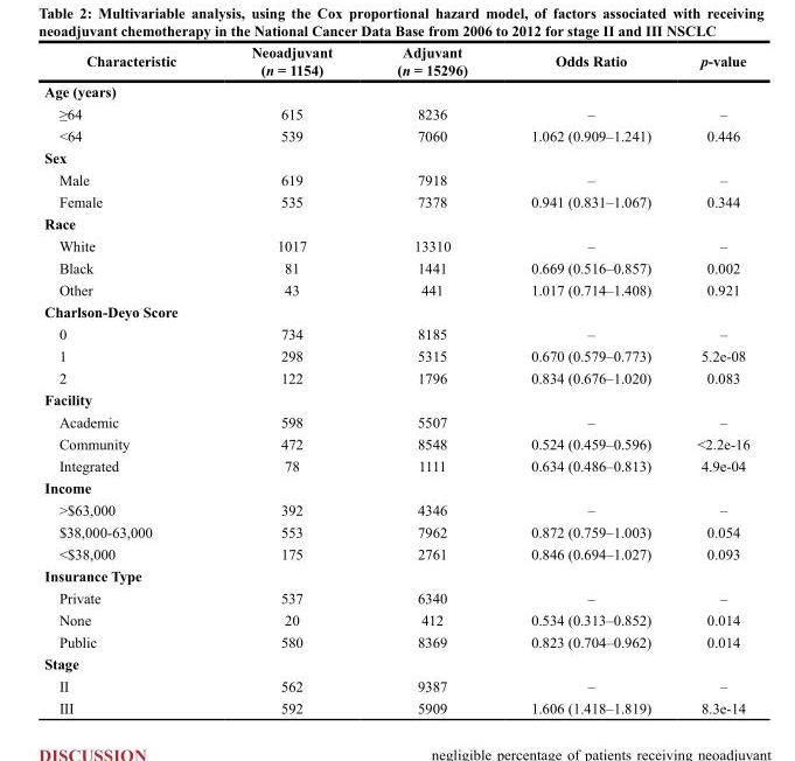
<table><thead><tr><td>Characteristic</td><td>Neoadjuvant (n = 1154)</td><td>Adjuvant (n = 15296)</td><td>Odds Ratio</td><td>p-value</td></tr></thead><tbody><tr><td colspan="5">Age (years)</td></tr><tr><td>≥64</td><td>615</td><td>8236</td><td>–</td><td>–</td></tr><tr><td>&lt;64</td><td>539</td><td>7060</td><td>1.062 (0.909–1.241)</td><td>0.446</td></tr><tr><td colspan="5">Sex</td></tr><tr><td>Male</td><td>619</td><td>7918</td><td>–</td><td>–</td></tr><tr><td>Female</td><td>535</td><td>7378</td><td>0.941 (0.831–1.067)</td><td>0.344</td></tr><tr><td colspan="5">Race</td></tr><tr><td>White</td><td>1017</td><td>13310</td><td>–</td><td>–</td></tr><tr><td>Black</td><td>81</td><td>1441</td><td>0.669 (0.516–0.857)</td><td>0.002</td></tr><tr><td>Other</td><td>43</td><td>441</td><td>1.017 (0.714–1.408)</td><td>0.921</td></tr><tr><td colspan="5">Charlson-Deyo Score</td></tr><tr><td>0</td><td>734</td><td>8185</td><td>–</td><td>–</td></tr><tr><td>1</td><td>298</td><td>5315</td><td>0.670 (0.579–0.773)</td><td>5.2e-08</td></tr><tr><td>2</td><td>122</td><td>1796</td><td>0.834 (0.676–1.020)</td><td>0.083</td></tr><tr><td colspan="5">Facility</td></tr><tr><td>Academic</td><td>598</td><td>5507</td><td>–</td><td>–</td></tr><tr><td>Community</td><td>472</td><td>8548</td><td>0.524 (0.459–0.596)</td><td>&lt;2.2e-16</td></tr><tr><td>Integrated</td><td>78</td><td>1111</td><td>0.634 (0.486–0.813)</td><td>4.9e-04</td></tr><tr><td colspan="5">Income</td></tr><tr><td>&gt;$63,000</td><td>392</td><td>4346</td><td>–</td><td>–</td></tr><tr><td>$38,000-63,000</td><td>553</td><td>7962</td><td>0.872 (0.759–1.003)</td><td>0.054</td></tr><tr><td>&lt;$38,000</td><td>175</td><td>2761</td><td>0.846 (0.694–1.027)</td><td>0.093</td></tr><tr><td colspan="5">Insurance Type</td></tr><tr><td>Private</td><td>537</td><td>6340</td><td>–</td><td>–</td></tr><tr><td>None</td><td>20</td><td>412</td><td>0.534 (0.313–0.852)</td><td>0.014</td></tr><tr><td>Public</td><td>580</td><td>8369</td><td>0.823 (0.704–0.962)</td><td>0.014</td></tr><tr><td colspan="5">Stage</td></tr><tr><td>II</td><td>562</td><td>9387</td><td>–</td><td>–</td></tr><tr><td>III</td><td>592</td><td>5909</td><td>1.606 (1.418–1.819)</td><td>8.3e-14</td></tr></tbody></table>